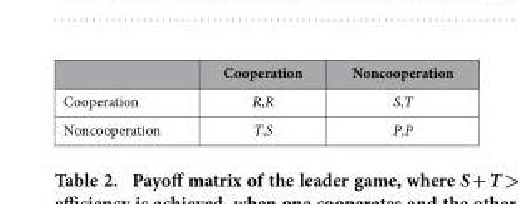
<table><thead><tr><td></td><td>Cooperation</td><td>Noncooperation</td></tr></thead><tbody><tr><td>Cooperation</td><td>R,R</td><td>S,T</td></tr><tr><td>Noncooperation</td><td>T,S</td><td>P,P</td></tr></tbody></table>